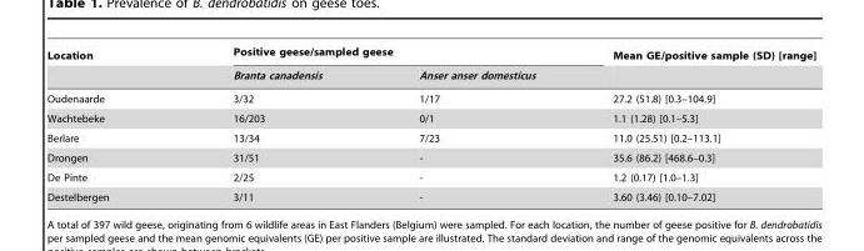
<table><thead><tr><td rowspan="2">Location</td><td colspan="2">Positive geese/sampled geese</td><td rowspan="2">Mean GE/positive sample (SD) [range]</td></tr><tr><td>Branta canadensis</td><td>Anser anser domesticus</td></tr></thead><tbody><tr><td>Oudenaarde</td><td>3/32</td><td>1/17</td><td>27.2 (51.8) [0.3–104.9]</td></tr><tr><td>Wachtebeke</td><td>16/203</td><td>0/1</td><td>1.1 (1.28) [0.1–5.3]</td></tr><tr><td>Berlare</td><td>13/34</td><td>7/23</td><td>11.0 (25.51) [0.2–113.1]</td></tr><tr><td>Drongen</td><td>31/51</td><td>-</td><td>35.6 (86.2) [468.6–0.3]</td></tr><tr><td>De Pinte</td><td>2/25</td><td>-</td><td>1.2 (0.17) [1.0–1.3]</td></tr><tr><td>Destelbergen</td><td>3/11</td><td>-</td><td>3.60 (3.46) [0.10–7.02]</td></tr></tbody></table>